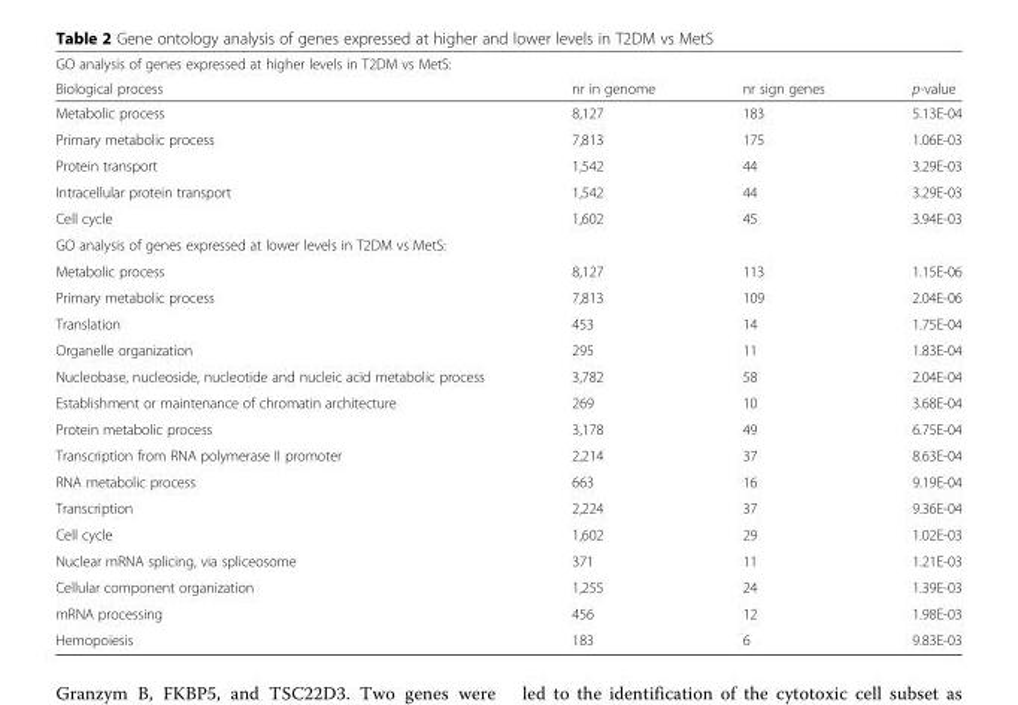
<table><thead><tr><td colspan="4">GO analysis of genes expressed at higher levels in T2DM vs MetS:</td></tr><tr><td>Biological process</td><td>nr in genome</td><td>nr sign genes</td><td>p-value</td></tr></thead><tbody><tr><td>Metabolic process</td><td>8,127</td><td>183</td><td>5.13E-04</td></tr><tr><td>Primary metabolic process</td><td>7,813</td><td>175</td><td>1.06E-03</td></tr><tr><td>Protein transport</td><td>1,542</td><td>44</td><td>3.29E-03</td></tr><tr><td>Intracellular protein transport</td><td>1,542</td><td>44</td><td>3.29E-03</td></tr><tr><td>Cell cycle</td><td>1,602</td><td>45</td><td>3.94E-03</td></tr><tr><td colspan="4">GO analysis of genes expressed at lower levels in T2DM vs MetS:</td></tr><tr><td>Metabolic process</td><td>8,127</td><td>113</td><td>1.15E-06</td></tr><tr><td>Primary metabolic process</td><td>7,813</td><td>109</td><td>2.04E-06</td></tr><tr><td>Translation</td><td>453</td><td>14</td><td>1.75E-04</td></tr><tr><td>Organelle organization</td><td>295</td><td>11</td><td>1.83E-04</td></tr><tr><td>Nucleobase, nucleoside, nucleotide and nucleic acid metabolic process</td><td>3,782</td><td>58</td><td>2.04E-04</td></tr><tr><td>Establishment or maintenance of chromatin architecture</td><td>269</td><td>10</td><td>3.68E-04</td></tr><tr><td>Protein metabolic process</td><td>3,178</td><td>49</td><td>6.75E-04</td></tr><tr><td>Transcription from RNA polymerase II promoter</td><td>2,214</td><td>37</td><td>8.63E-04</td></tr><tr><td>RNA metabolic process</td><td>663</td><td>16</td><td>9.19E-04</td></tr><tr><td>Transcription</td><td>2,224</td><td>37</td><td>9.36E-04</td></tr><tr><td>Cell cycle</td><td>1,602</td><td>29</td><td>1.02E-03</td></tr><tr><td>Nuclear mRNA splicing, via spliceosome</td><td>371</td><td>11</td><td>1.21E-03</td></tr><tr><td>Cellular component organization</td><td>1,255</td><td>24</td><td>1.39E-03</td></tr><tr><td>mRNA processing</td><td>456</td><td>12</td><td>1.98E-03</td></tr><tr><td>Hemopoiesis</td><td>183</td><td>6</td><td>9.83E-03</td></tr></tbody></table>